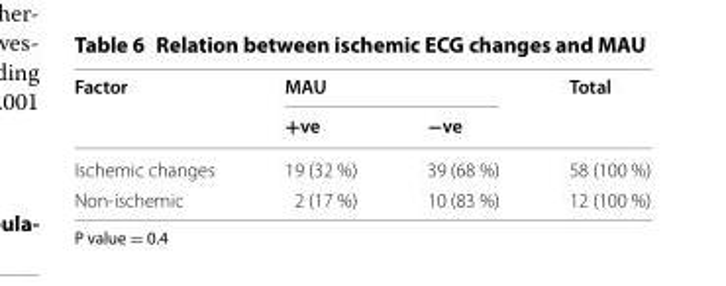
<table><thead><tr><td rowspan="2">Factor</td><td colspan="2">MAU</td><td rowspan="2">Total</td></tr><tr><td>+ve</td><td>−ve</td></tr></thead><tbody><tr><td>Ischemic changes</td><td>19 (32 %)</td><td>39 (68 %)</td><td>58 (100 %)</td></tr><tr><td>Non‑ischemic</td><td>2 (17 %)</td><td>10 (83 %)</td><td>12 (100 %)</td></tr></tbody></table>